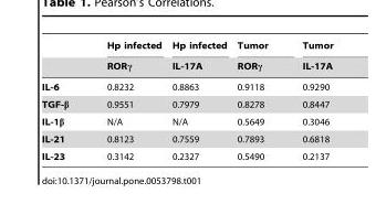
<table><thead><tr><td rowspan="2"></td><td rowspan="2">Hp infected RORγ</td><td rowspan="2">Hp infected IL-17A</td><td rowspan="2">Tumor RORγ</td><td rowspan="2">Tumor IL-17A</td></tr><tr></tr></thead><tbody><tr><td>IL-6</td><td>0.8232</td><td>0.8863</td><td>0.9118</td><td>0.9290</td></tr><tr><td>TGF-β</td><td>0.9551</td><td>0.7979</td><td>0.8278</td><td>0.8447</td></tr><tr><td>IL-1β</td><td>N/A</td><td>N/A</td><td>0.5649</td><td>0.3046</td></tr><tr><td>IL-21</td><td>0.8123</td><td>0.7559</td><td>0.7893</td><td>0.6818</td></tr><tr><td>IL-23</td><td>0.3142</td><td>0.2327</td><td>0.5490</td><td>0.2137</td></tr></tbody></table>